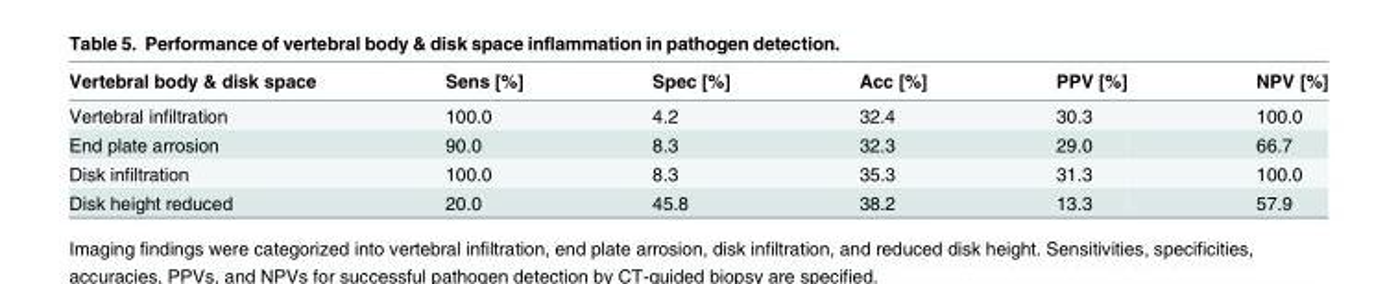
<table><thead><tr><td>Vertebral body &amp; disk space</td><td>Sens [%]</td><td>Spec [%]</td><td>Acc [%]</td><td>PPV [%]</td><td>NPV [%]</td></tr></thead><tbody><tr><td>Vertebral infiltration</td><td>100.0</td><td>4.2</td><td>32.4</td><td>30.3</td><td>100.0</td></tr><tr><td>End plate arrosion</td><td>90.0</td><td>8.3</td><td>32.3</td><td>29.0</td><td>66.7</td></tr><tr><td>Disk infiltration</td><td>100.0</td><td>8.3</td><td>35.3</td><td>31.3</td><td>100.0</td></tr><tr><td>Disk height reduced</td><td>20.0</td><td>45.8</td><td>38.2</td><td>13.3</td><td>57.9</td></tr></tbody></table>